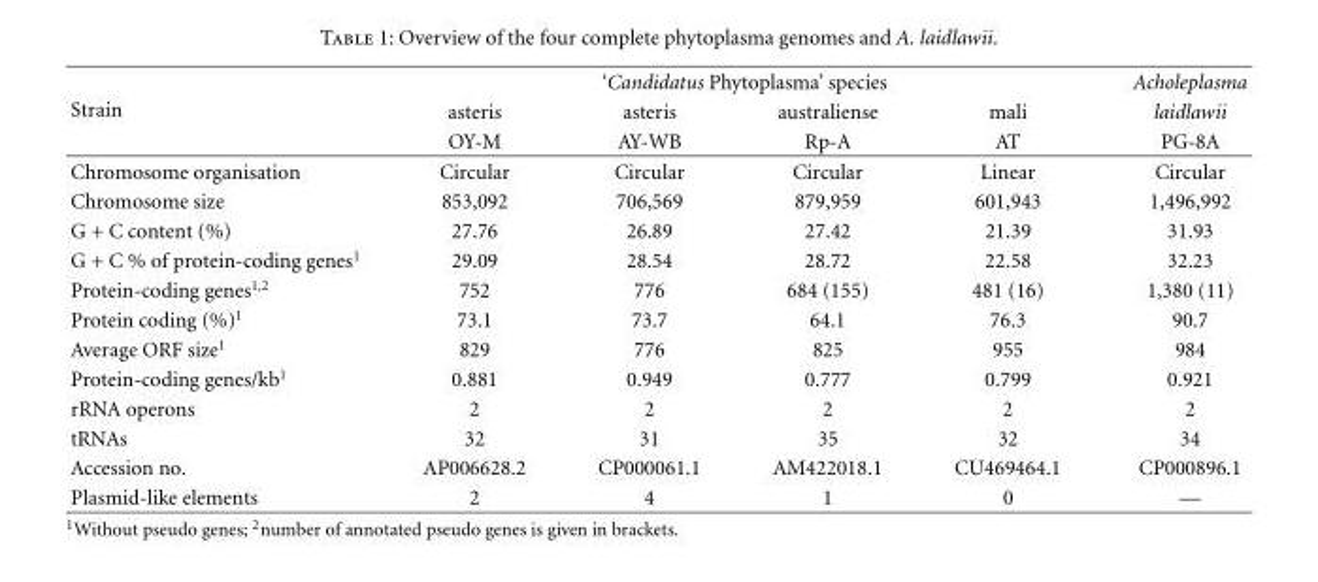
<table><thead><tr><td rowspan="3">Strain</td><td colspan="4">‘Candidatus Phytoplasma’ species</td><td rowspan="3">Acholeplasma laidlawii PG-8A</td></tr><tr><td rowspan="2">asteris OY-M</td><td rowspan="2">asteris AY-WB</td><td rowspan="2">australiense Rp-A</td><td rowspan="2">mali AT</td></tr><tr></tr></thead><tbody><tr><td>Chromosome organisation</td><td>Circular</td><td>Circular</td><td>Circular</td><td>Linear</td><td>Circular</td></tr><tr><td>Chromosome size</td><td>853,092</td><td>706,569</td><td>879,959</td><td>601,943</td><td>1,496,992</td></tr><tr><td>G + C content (%)</td><td>27.76</td><td>26.89</td><td>27.42</td><td>21.39</td><td>31.93</td></tr><tr><td>G + C % of protein-coding genes<sup>1</sup></td><td>29.09</td><td>28.54</td><td>28.72</td><td>22.58</td><td>32.23</td></tr><tr><td>Protein-coding genes<sup>1,2</sup></td><td>752</td><td>776</td><td>684 (155)</td><td>481 (16)</td><td>1,380 (11)</td></tr><tr><td>Protein coding (%)<sup>1</sup></td><td>73.1</td><td>73.7</td><td>64.1</td><td>76.3</td><td>90.7</td></tr><tr><td>Average ORF size<sup>1</sup></td><td>829</td><td>776</td><td>825</td><td>955</td><td>984</td></tr><tr><td>Protein-coding genes/kb<sup>1</sup></td><td>0.881</td><td>0.949</td><td>0.777</td><td>0.799</td><td>0.921</td></tr><tr><td>rRNA operons</td><td>2</td><td>2</td><td>2</td><td>2</td><td>2</td></tr><tr><td>tRNAs</td><td>32</td><td>31</td><td>35</td><td>32</td><td>34</td></tr><tr><td>Accession no.</td><td>AP006628.2</td><td>CP000061.1</td><td>AM422018.1</td><td>CU469464.1</td><td>CP000896.1</td></tr><tr><td>Plasmid-like elements</td><td>2</td><td>4</td><td>1</td><td>0</td><td>—</td></tr></tbody></table>